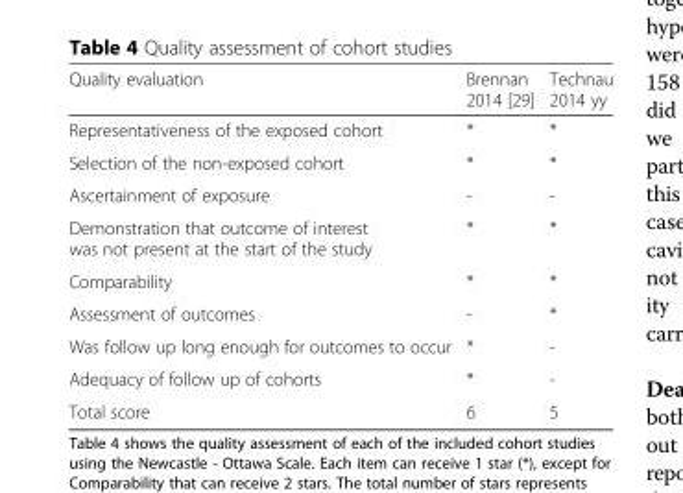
<table><thead><tr><td>Quality evaluation</td><td>Brennan 2014 [29]</td><td>Technau 2014 yy</td></tr></thead><tbody><tr><td>Representativeness of the exposed cohort</td><td>*</td><td>*</td></tr><tr><td>Selection of the non-exposed cohort</td><td>*</td><td>*</td></tr><tr><td>Ascertainment of exposure</td><td>-</td><td>-</td></tr><tr><td>Demonstration that outcome of interest was not present at the start of the study</td><td>*</td><td>*</td></tr><tr><td>Comparability</td><td>*</td><td>*</td></tr><tr><td>Assessment of outcomes</td><td>-</td><td>*</td></tr><tr><td>Was follow up long enough for outcomes to occur</td><td>*</td><td>-</td></tr><tr><td>Adequacy of follow up of cohorts</td><td>*</td><td>-</td></tr><tr><td>Total score</td><td>6</td><td>5</td></tr></tbody></table>